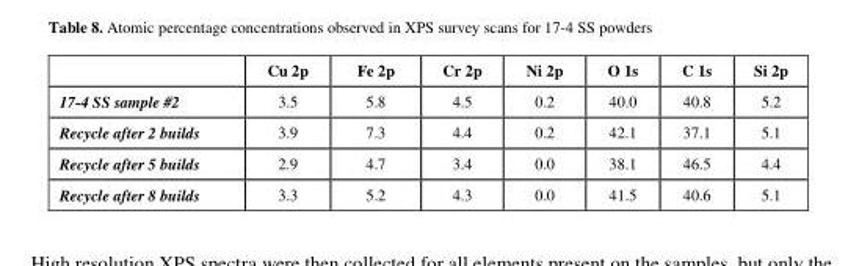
<table><thead><tr><td></td><td>Cu 2p</td><td>Fe 2p</td><td>Cr 2p</td><td>Ni 2p</td><td>O 1s</td><td>C 1s</td><td>Si 2p</td></tr></thead><tbody><tr><td>17-4 SS sample #2</td><td>3.5</td><td>5.8</td><td>4.5</td><td>0.2</td><td>40.0</td><td>40.8</td><td>5.2</td></tr><tr><td>Recycle after 2 builds</td><td>3.9</td><td>7.3</td><td>4.4</td><td>0.2</td><td>42.1</td><td>37.1</td><td>5.1</td></tr><tr><td>Recycle after 5 builds</td><td>2.9</td><td>4.7</td><td>3.4</td><td>0.0</td><td>38.1</td><td>46.5</td><td>4.4</td></tr><tr><td>Recycle after 8 builds</td><td>3.3</td><td>5.2</td><td>4.3</td><td>0.0</td><td>41.5</td><td>40.6</td><td>5.1</td></tr></tbody></table>